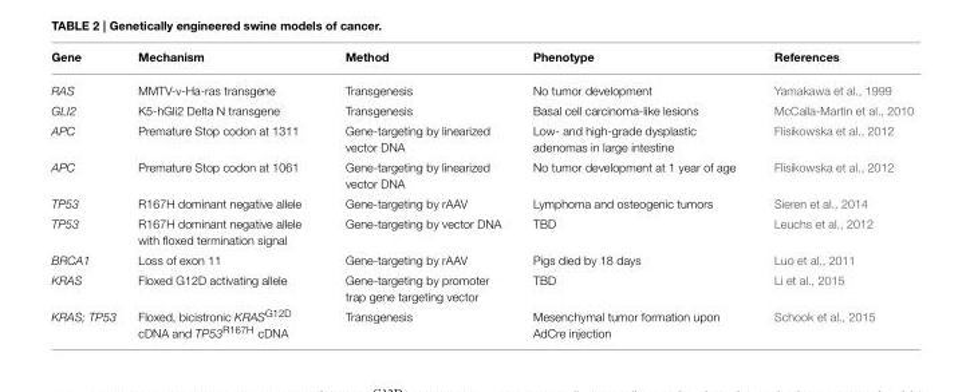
<table><thead><tr><td>Gene</td><td>Mechanism</td><td>Method</td><td>Phenotype</td><td>References</td></tr></thead><tbody><tr><td>RAS</td><td>MMTV-v-Ha-ras transgene</td><td>Transgenesis</td><td>No tumor development</td><td>Yamakawa et al., 1999</td></tr><tr><td>GLI2</td><td>K5-hGli2 Delta N transgene</td><td>Transgenesis</td><td>Basal cell carcinoma-like lesions</td><td>McCalla-Martin et al., 2010</td></tr><tr><td>APC</td><td>Premature Stop codon at 1311</td><td>Gene-targeting by linearized vector DNA</td><td>Low- and high-grade dysplastic adenomas in large intestine</td><td>Flisikowska et al., 2012</td></tr><tr><td>APC</td><td>Premature Stop codon at 1061</td><td>Gene-targeting by linearized vector DNA</td><td>No tumor development at 1 year of age</td><td>Flisikowska et al., 2012</td></tr><tr><td>TP53</td><td>R167H dominant negative allele</td><td>Gene-targeting by rAAV</td><td>Lymphoma and osteogenic tumors</td><td>Sieren et al., 2014</td></tr><tr><td>TP53</td><td>R167H dominant negative allele with floxed termination signal</td><td>Gene-targeting by vector DNA</td><td>TBD</td><td>Leuchs et al., 2012</td></tr><tr><td>BRCA1</td><td>Loss of exon 11</td><td>Gene-targeting by rAAV</td><td>Pigs died by 18 days</td><td>Luo et al., 2011</td></tr><tr><td>KRAS</td><td>Floxed G12D activating allele</td><td>Gene-targeting by promoter trap gene targeting vector</td><td>TBD</td><td>Li et al., 2015</td></tr><tr><td>KRAS; TP53</td><td>Floxed, bicistronic KRAS<sup>G12D</sup> cDNA and TP53<sup>R167H</sup> cDNA</td><td>Transgenesis</td><td>Mesenchymal tumor formation upon AdCre injection</td><td>Schook et al., 2015</td></tr></tbody></table>